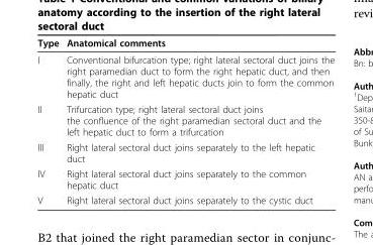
<table><thead><tr><td>Type</td><td>Anatomical comments</td></tr></thead><tbody><tr><td>I</td><td>Conventional bifurcation type; right lateral sectoral duct joins the right paramedian duct to form the right hepatic duct, and then finally, the right and left hepatic ducts join to form the common hepatic duct</td></tr><tr><td>II</td><td>Trifurcation type; right lateral sectoral duct joins the confluence of the right paramedian sectoral duct and the left hepatic duct to form a trifurcation</td></tr><tr><td>III</td><td>Right lateral sectoral duct joins separately to the left hepatic duct</td></tr><tr><td>IV</td><td>Right lateral sectoral duct joins separately to the common hepatic duct</td></tr><tr><td>V</td><td>Right lateral sectoral duct joins separately to the cystic duct</td></tr></tbody></table>